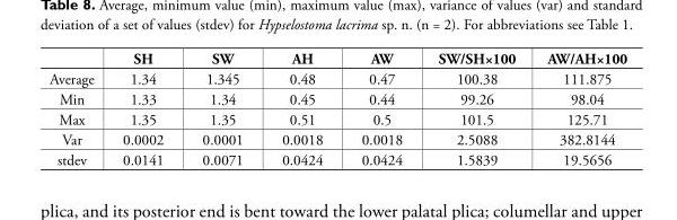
<table><thead><tr><td></td><td>SH</td><td>SW</td><td>AH</td><td>AW</td><td>SW/SH×100</td><td>AW/AH×100</td></tr></thead><tbody><tr><td>Average</td><td>1.34</td><td>1.345</td><td>0.48</td><td>0.47</td><td>100.38</td><td>111.875</td></tr><tr><td>Min</td><td>1.33</td><td>1.34</td><td>0.45</td><td>0.44</td><td>99.26</td><td>98.04</td></tr><tr><td>Max</td><td>1.35</td><td>1.35</td><td>0.51</td><td>0.5</td><td>101.5</td><td>125.71</td></tr><tr><td>Var</td><td>0.0002</td><td>0.0001</td><td>0.0018</td><td>0.0018</td><td>2.5088</td><td>382.8144</td></tr><tr><td>stdev</td><td>0.0141</td><td>0.0071</td><td>0.0424</td><td>0.0424</td><td>1.5839</td><td>19.5656</td></tr></tbody></table>